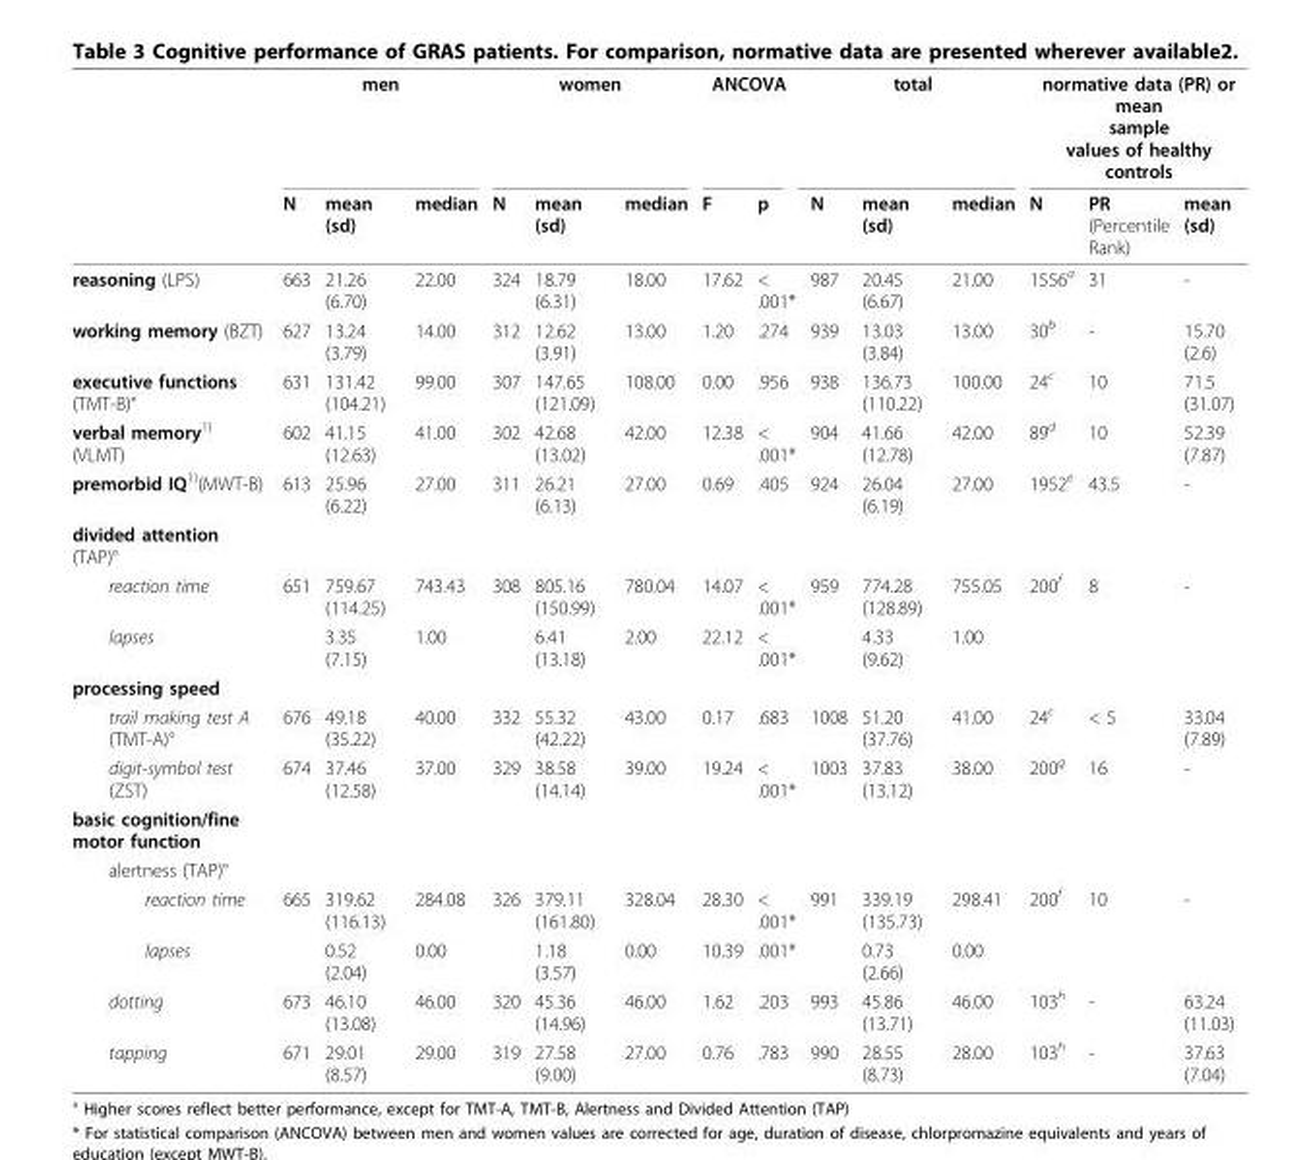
<table><thead><tr><td rowspan="2"></td><td colspan="3">men</td><td colspan="3">women</td><td colspan="2">ANCOVA</td><td colspan="3">total</td><td colspan="3">normative data (PR) or mean sample values of healthy controls</td></tr><tr><td>N</td><td>mean (sd)</td><td>median</td><td>N</td><td>mean (sd)</td><td>median</td><td>F</td><td>p</td><td>N</td><td>mean (sd)</td><td>median</td><td>N</td><td>PR (Percentile Rank)</td><td>mean (sd)</td></tr></thead><tbody><tr><td>reasoning (LPS)</td><td>663</td><td>21.26 (6.70)</td><td>22.00</td><td>324</td><td>18.79 (6.31)</td><td>18.00</td><td>17.62</td><td>&lt; .001*</td><td>987</td><td>20.45 (6.67)</td><td>21.00</td><td>1556<sup>a</sup></td><td>31</td><td>-</td></tr><tr><td>working memory (BZT)</td><td>627</td><td>13.24 (3.79)</td><td>14.00</td><td>312</td><td>12.62 (3.91)</td><td>13.00</td><td>1.20</td><td>.274</td><td>939</td><td>13.03 (3.84)</td><td>13.00</td><td>30<sup>b</sup></td><td>-</td><td>15.70 (2.6)</td></tr><tr><td>executive functions (TMT-B)°</td><td>631</td><td>131.42 (104.21)</td><td>99.00</td><td>307</td><td>147.65 (121.09)</td><td>108.00</td><td>0.00</td><td>.956</td><td>938</td><td>136.73 (110.22)</td><td>100.00</td><td>24<sup>c</sup></td><td>10</td><td>71.5 (31.07)</td></tr><tr><td>verbal memory<sup>1)</sup> (VLMT)</td><td>602</td><td>41.15 (12.63)</td><td>41.00</td><td>302</td><td>42.68 (13.02)</td><td>42.00</td><td>12.38</td><td>&lt; .001*</td><td>904</td><td>41.66 (12.78)</td><td>42.00</td><td>89<sup>d</sup></td><td>10</td><td>52.39 (7.87)</td></tr><tr><td>premorbid IQ<sup>1)</sup>(MWT-B)</td><td>613</td><td>25.96 (6.22)</td><td>27.00</td><td>311</td><td>26.21 (6.13)</td><td>27.00</td><td>0.69</td><td>.405</td><td>924</td><td>26.04 (6.19)</td><td>27.00</td><td>1952<sup>e</sup></td><td>43.5</td><td>-</td></tr><tr><td colspan="15">divided attention (TAP)°</td></tr><tr><td>reaction time</td><td>651</td><td>759.67 (114.25)</td><td>743.43</td><td>308</td><td>805.16 (150.99)</td><td>780.04</td><td>14.07</td><td>&lt; .001*</td><td>959</td><td>774.28 (128.89)</td><td>755.05</td><td>200<sup>f</sup></td><td>8</td><td>-</td></tr><tr><td>lapses</td><td></td><td>3.35 (7.15)</td><td>1.00</td><td></td><td>6.41 (13.18)</td><td>2.00</td><td>22.12</td><td>&lt; .001*</td><td></td><td>4.33 (9.62)</td><td>1.00</td><td></td><td></td><td></td></tr><tr><td colspan="15">processing speed</td></tr><tr><td>trail making test A (TMT-A)°</td><td>676</td><td>49.18 (35.22)</td><td>40.00</td><td>332</td><td>55.32 (42.22)</td><td>43.00</td><td>0.17</td><td>.683</td><td>1008</td><td>51.20 (37.76)</td><td>41.00</td><td>24<sup>c</sup></td><td>&lt; 5</td><td>33.04 (7.89)</td></tr><tr><td>digit-symbol test (ZST)</td><td>674</td><td>37.46 (12.58)</td><td>37.00</td><td>329</td><td>38.58 (14.14)</td><td>39.00</td><td>19.24</td><td>&lt; .001*</td><td>1003</td><td>37.83 (13.12)</td><td>38.00</td><td>200<sup>g</sup></td><td>16</td><td>-</td></tr><tr><td colspan="15">basic cognition/fine motor function</td></tr><tr><td colspan="15">alertness (TAP)°</td></tr><tr><td>reaction time</td><td>665</td><td>319.62 (116.13)</td><td>284.08</td><td>326</td><td>379.11 (161.80)</td><td>328.04</td><td>28.30</td><td>&lt; .001*</td><td>991</td><td>339.19 (135.73)</td><td>298.41</td><td>200<sup>f</sup></td><td>10</td><td>-</td></tr><tr><td>lapses</td><td></td><td>0.52 (2.04)</td><td>0.00</td><td></td><td>1.18 (3.57)</td><td>0.00</td><td>10.39</td><td>.001*</td><td></td><td>0.73 (2.66)</td><td>0.00</td><td></td><td></td><td></td></tr><tr><td>dotting</td><td>673</td><td>46.10 (13.08)</td><td>46.00</td><td>320</td><td>45.36 (14.96)</td><td>46.00</td><td>1.62</td><td>.203</td><td>993</td><td>45.86 (13.71)</td><td>46.00</td><td>103<sup>h</sup></td><td>-</td><td>63.24 (11.03)</td></tr><tr><td>tapping</td><td>671</td><td>29.01 (8.57)</td><td>29.00</td><td>319</td><td>27.58 (9.00)</td><td>27.00</td><td>0.76</td><td>.783</td><td>990</td><td>28.55 (8.73)</td><td>28.00</td><td>103<sup>h</sup></td><td>-</td><td>37.63 (7.04)</td></tr></tbody></table>